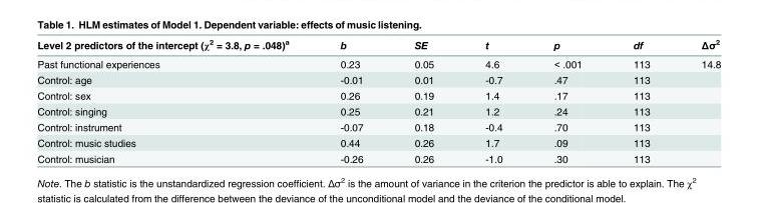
<table><thead><tr><td>Level 2 predictors of the intercept (χ<sup>2</sup> = 3.8, p = .048)<sup>a</sup></td><td>b</td><td>SE</td><td>t</td><td>p</td><td>df</td><td>Δσ<sup>2</sup></td></tr></thead><tbody><tr><td>Past functional experiences</td><td>0.23</td><td>0.05</td><td>4.6</td><td>&lt; .001</td><td>113</td><td>14.8</td></tr><tr><td>Control: age</td><td>-0.01</td><td>0.01</td><td>-0.7</td><td>.47</td><td>113</td><td></td></tr><tr><td>Control: sex</td><td>0.26</td><td>0.19</td><td>1.4</td><td>.17</td><td>113</td><td></td></tr><tr><td>Control: singing</td><td>0.25</td><td>0.21</td><td>1.2</td><td>.24</td><td>113</td><td></td></tr><tr><td>Control: instrument</td><td>-0.07</td><td>0.18</td><td>-0.4</td><td>.70</td><td>113</td><td></td></tr><tr><td>Control: music studies</td><td>0.44</td><td>0.26</td><td>1.7</td><td>.09</td><td>113</td><td></td></tr><tr><td>Control: musician</td><td>-0.26</td><td>0.26</td><td>-1.0</td><td>.30</td><td>113</td><td></td></tr></tbody></table>